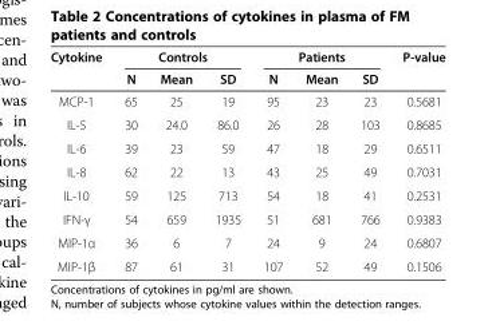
<table><thead><tr><td rowspan="2">Cytokine</td><td colspan="3">Controls</td><td colspan="3">Patients</td><td rowspan="2">P-value</td></tr><tr><td>N</td><td>Mean</td><td>SD</td><td>N</td><td>Mean</td><td>SD</td></tr></thead><tbody><tr><td>MCP-1</td><td>65</td><td>25</td><td>19</td><td>95</td><td>23</td><td>23</td><td>0.5681</td></tr><tr><td>IL-5</td><td>30</td><td>24.0</td><td>86.0</td><td>26</td><td>28</td><td>103</td><td>0.8685</td></tr><tr><td>IL-6</td><td>39</td><td>23</td><td>59</td><td>47</td><td>18</td><td>29</td><td>0.6511</td></tr><tr><td>IL-8</td><td>62</td><td>22</td><td>13</td><td>43</td><td>25</td><td>49</td><td>0.7031</td></tr><tr><td>IL-10</td><td>59</td><td>125</td><td>713</td><td>54</td><td>18</td><td>41</td><td>0.2531</td></tr><tr><td>IFN-γ</td><td>54</td><td>659</td><td>1935</td><td>51</td><td>681</td><td>766</td><td>0.9383</td></tr><tr><td>MIP-1α</td><td>36</td><td>6</td><td>7</td><td>24</td><td>9</td><td>24</td><td>0.6807</td></tr><tr><td>MIP-1β</td><td>87</td><td>61</td><td>31</td><td>107</td><td>52</td><td>49</td><td>0.1506</td></tr></tbody></table>